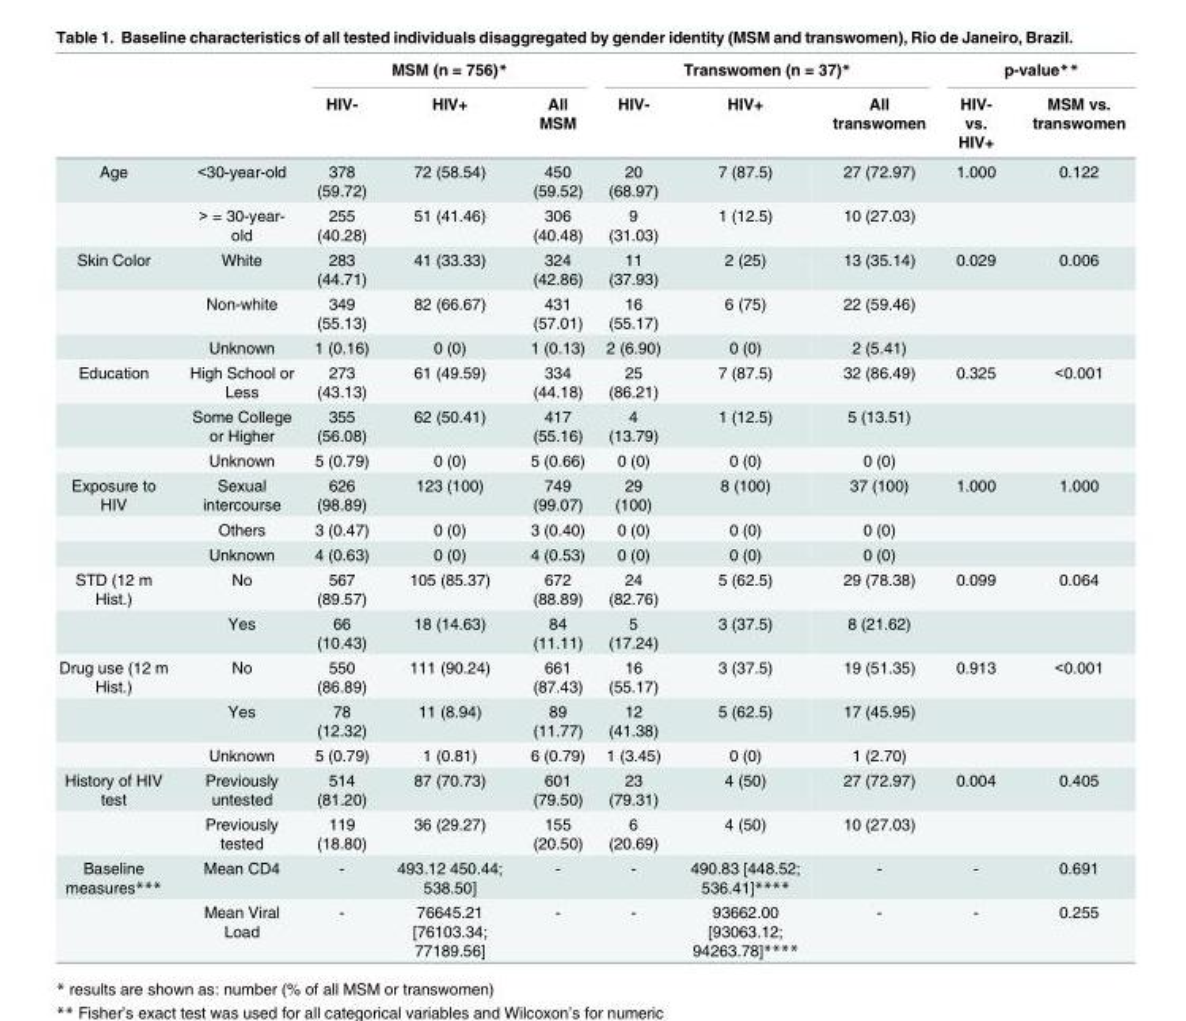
<table><thead><tr><td rowspan="2"></td><td rowspan="2"></td><td colspan="3">MSM (n = 756)*</td><td colspan="3">Transwomen (n = 37)*</td><td colspan="2">p-value**</td></tr><tr><td>HIV-</td><td>HIV+</td><td>All MSM</td><td>HIV-</td><td>HIV+</td><td>All transwomen</td><td>HIV- vs. HIV+</td><td>MSM vs. transwomen</td></tr></thead><tbody><tr><td rowspan="2">Age</td><td>&lt;30-year-old</td><td>378 (59.72)</td><td>72 (58.54)</td><td>450 (59.52)</td><td>20 (68.97)</td><td>7 (87.5)</td><td>27 (72.97)</td><td>1.000</td><td>0.122</td></tr><tr><td>&gt; = 30-year- old</td><td>255 (40.28)</td><td>51 (41.46)</td><td>306 (40.48)</td><td>9 (31.03)</td><td>1 (12.5)</td><td>10 (27.03)</td><td></td><td></td></tr><tr><td rowspan="3">Skin Color</td><td>White</td><td>283 (44.71)</td><td>41 (33.33)</td><td>324 (42.86)</td><td>11 (37.93)</td><td>2 (25)</td><td>13 (35.14)</td><td>0.029</td><td>0.006</td></tr><tr><td>Non-white</td><td>349 (55.13)</td><td>82 (66.67)</td><td>431 (57.01)</td><td>16 (55.17)</td><td>6 (75)</td><td>22 (59.46)</td><td></td><td></td></tr><tr><td>Unknown</td><td>1 (0.16)</td><td>0 (0)</td><td>1 (0.13)</td><td>2 (6.90)</td><td>0 (0)</td><td>2 (5.41)</td><td></td><td></td></tr><tr><td rowspan="3">Education</td><td>High School or Less</td><td>273 (43.13)</td><td>61 (49.59)</td><td>334 (44.18)</td><td>25 (86.21)</td><td>7 (87.5)</td><td>32 (86.49)</td><td>0.325</td><td>&lt;0.001</td></tr><tr><td>Some College or Higher</td><td>355 (56.08)</td><td>62 (50.41)</td><td>417 (55.16)</td><td>4 (13.79)</td><td>1 (12.5)</td><td>5 (13.51)</td><td></td><td></td></tr><tr><td>Unknown</td><td>5 (0.79)</td><td>0 (0)</td><td>5 (0.66)</td><td>0 (0)</td><td>0 (0)</td><td>0 (0)</td><td></td><td></td></tr><tr><td rowspan="3">Exposure to HIV</td><td>Sexual intercourse</td><td>626 (98.89)</td><td>123 (100)</td><td>749 (99.07)</td><td>29 (100)</td><td>8 (100)</td><td>37 (100)</td><td>1.000</td><td>1.000</td></tr><tr><td>Others</td><td>3 (0.47)</td><td>0 (0)</td><td>3 (0.40)</td><td>0 (0)</td><td>0 (0)</td><td>0 (0)</td><td></td><td></td></tr><tr><td>Unknown</td><td>4 (0.63)</td><td>0 (0)</td><td>4 (0.53)</td><td>0 (0)</td><td>0 (0)</td><td>0 (0)</td><td></td><td></td></tr><tr><td rowspan="2">STD (12 m Hist.)</td><td>No</td><td>567 (89.57)</td><td>105 (85.37)</td><td>672 (88.89)</td><td>24 (82.76)</td><td>5 (62.5)</td><td>29 (78.38)</td><td>0.099</td><td>0.064</td></tr><tr><td>Yes</td><td>66 (10.43)</td><td>18 (14.63)</td><td>84 (11.11)</td><td>5 (17.24)</td><td>3 (37.5)</td><td>8 (21.62)</td><td></td><td></td></tr><tr><td rowspan="3">Drug use (12 m Hist.)</td><td>No</td><td>550 (86.89)</td><td>111 (90.24)</td><td>661 (87.43)</td><td>16 (55.17)</td><td>3 (37.5)</td><td>19 (51.35)</td><td>0.913</td><td>&lt;0.001</td></tr><tr><td>Yes</td><td>78 (12.32)</td><td>11 (8.94)</td><td>89 (11.77)</td><td>12 (41.38)</td><td>5 (62.5)</td><td>17 (45.95)</td><td></td><td></td></tr><tr><td>Unknown</td><td>5 (0.79)</td><td>1 (0.81)</td><td>6 (0.79)</td><td>1 (3.45)</td><td>0 (0)</td><td>1 (2.70)</td><td></td><td></td></tr><tr><td rowspan="2">History of HIV test</td><td>Previously untested</td><td>514 (81.20)</td><td>87 (70.73)</td><td>601 (79.50)</td><td>23 (79.31)</td><td>4 (50)</td><td>27 (72.97)</td><td>0.004</td><td>0.405</td></tr><tr><td>Previously tested</td><td>119 (18.80)</td><td>36 (29.27)</td><td>155 (20.50)</td><td>6 (20.69)</td><td>4 (50)</td><td>10 (27.03)</td><td></td><td></td></tr><tr><td rowspan="2">Baseline measures***</td><td>Mean CD4</td><td>-</td><td>493.12 450.44; 538.50]</td><td>-</td><td>-</td><td>490.83 [448.52; 536.41]****</td><td>-</td><td>-</td><td>0.691</td></tr><tr><td>Mean Viral Load</td><td>-</td><td>76645.21 [76103.34; 77189.56]</td><td>-</td><td>-</td><td>93662.00 [93063.12; 94263.78]****</td><td>-</td><td>-</td><td>0.255</td></tr></tbody></table>